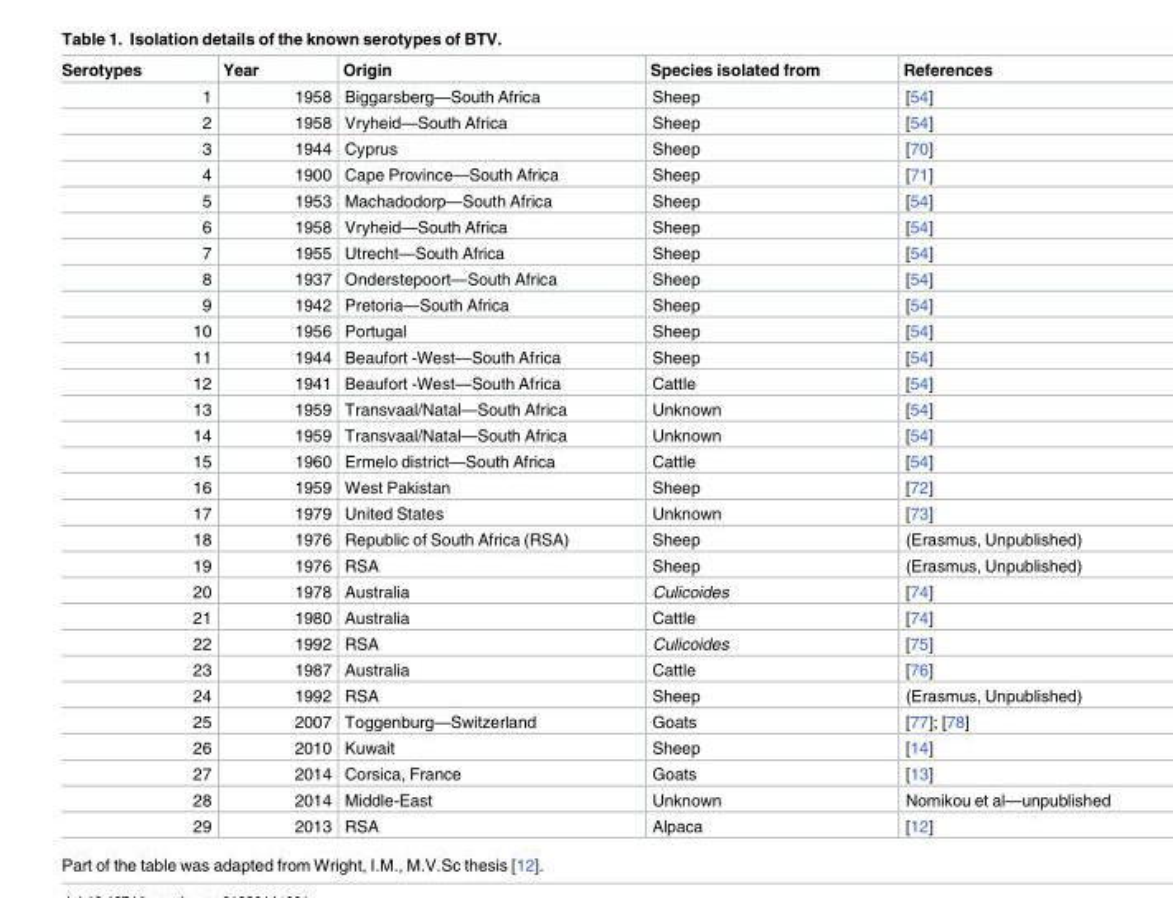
<table><thead><tr><td>Serotypes</td><td>Year</td><td>Origin</td><td>Species isolated from</td><td>References</td></tr></thead><tbody><tr><td>1</td><td>1958</td><td>Biggarsberg—South Africa</td><td>Sheep</td><td>[54]</td></tr><tr><td>2</td><td>1958</td><td>Vryheid—South Africa</td><td>Sheep</td><td>[54]</td></tr><tr><td>3</td><td>1944</td><td>Cyprus</td><td>Sheep</td><td>[70]</td></tr><tr><td>4</td><td>1900</td><td>Cape Province—South Africa</td><td>Sheep</td><td>[71]</td></tr><tr><td>5</td><td>1953</td><td>Machadodorp—South Africa</td><td>Sheep</td><td>[54]</td></tr><tr><td>6</td><td>1958</td><td>Vryheid—South Africa</td><td>Sheep</td><td>[54]</td></tr><tr><td>7</td><td>1955</td><td>Utrecht—South Africa</td><td>Sheep</td><td>[54]</td></tr><tr><td>8</td><td>1937</td><td>Onderstepoort—South Africa</td><td>Sheep</td><td>[54]</td></tr><tr><td>9</td><td>1942</td><td>Pretoria—South Africa</td><td>Sheep</td><td>[54]</td></tr><tr><td>10</td><td>1956</td><td>Portugal</td><td>Sheep</td><td>[54]</td></tr><tr><td>11</td><td>1944</td><td>Beaufort -West—South Africa</td><td>Sheep</td><td>[54]</td></tr><tr><td>12</td><td>1941</td><td>Beaufort -West—South Africa</td><td>Cattle</td><td>[54]</td></tr><tr><td>13</td><td>1959</td><td>Transvaal/Natal—South Africa</td><td>Unknown</td><td>[54]</td></tr><tr><td>14</td><td>1959</td><td>Transvaal/Natal—South Africa</td><td>Unknown</td><td>[54]</td></tr><tr><td>15</td><td>1960</td><td>Ermelo district—South Africa</td><td>Cattle</td><td>[54]</td></tr><tr><td>16</td><td>1959</td><td>West Pakistan</td><td>Sheep</td><td>[72]</td></tr><tr><td>17</td><td>1979</td><td>United States</td><td>Unknown</td><td>[73]</td></tr><tr><td>18</td><td>1976</td><td>Republic of South Africa (RSA)</td><td>Sheep</td><td>(Erasmus, Unpublished)</td></tr><tr><td>19</td><td>1976</td><td>RSA</td><td>Sheep</td><td>(Erasmus, Unpublished)</td></tr><tr><td>20</td><td>1978</td><td>Australia</td><td>Culicoides</td><td>[74]</td></tr><tr><td>21</td><td>1980</td><td>Australia</td><td>Cattle</td><td>[74]</td></tr><tr><td>22</td><td>1992</td><td>RSA</td><td>Culicoides</td><td>[75]</td></tr><tr><td>23</td><td>1987</td><td>Australia</td><td>Cattle</td><td>[76]</td></tr><tr><td>24</td><td>1992</td><td>RSA</td><td>Sheep</td><td>(Erasmus, Unpublished)</td></tr><tr><td>25</td><td>2007</td><td>Toggenburg—Switzerland</td><td>Goats</td><td>[77]; [78]</td></tr><tr><td>26</td><td>2010</td><td>Kuwait</td><td>Sheep</td><td>[14]</td></tr><tr><td>27</td><td>2014</td><td>Corsica, France</td><td>Goats</td><td>[13]</td></tr><tr><td>28</td><td>2014</td><td>Middle-East</td><td>Unknown</td><td>Nomikou et al—unpublished</td></tr><tr><td>29</td><td>2013</td><td>RSA</td><td>Alpaca</td><td>[12]</td></tr></tbody></table>